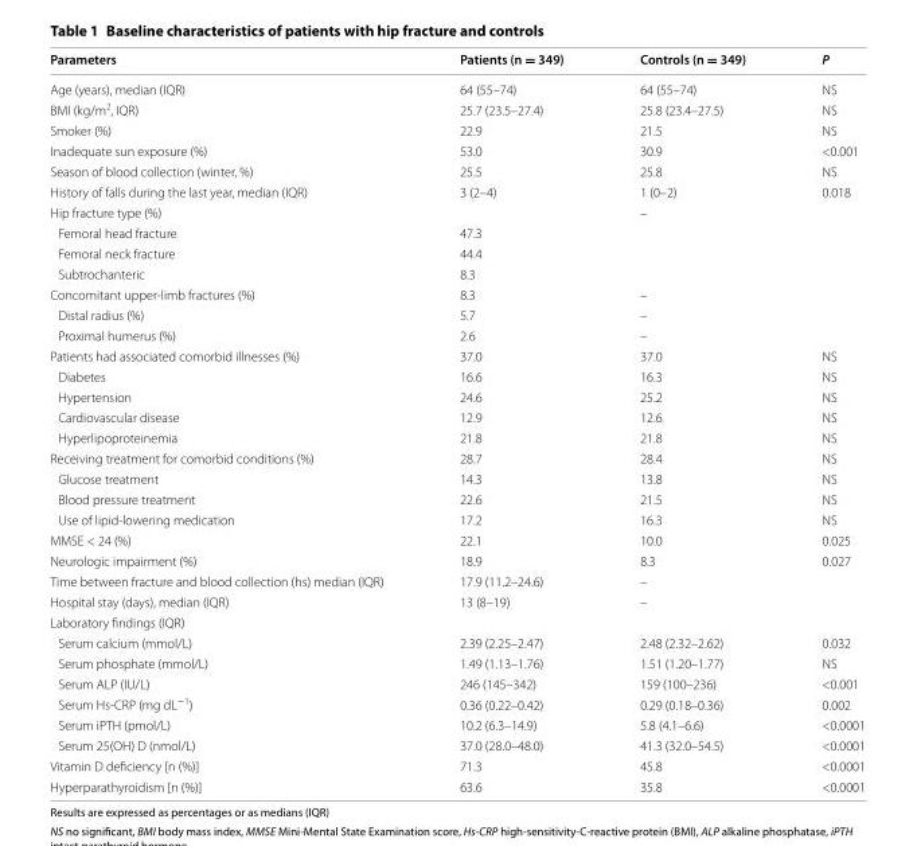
<table><thead><tr><td>Parameters</td><td>Patients (n = 349)</td><td>Controls (n = 349)</td><td>P</td></tr></thead><tbody><tr><td>Age (years), median (IQR)</td><td>64 (55–74)</td><td>64 (55–74)</td><td>NS</td></tr><tr><td>BMI (kg/m<sup>2</sup>, IQR)</td><td>25.7 (23.5–27.4)</td><td>25.8 (23.4–27.5)</td><td>NS</td></tr><tr><td>Smoker (%)</td><td>22.9</td><td>21.5</td><td>NS</td></tr><tr><td>Inadequate sun exposure (%)</td><td>53.0</td><td>30.9</td><td>&lt;0.001</td></tr><tr><td>Season of blood collection (winter, %)</td><td>25.5</td><td>25.8</td><td>NS</td></tr><tr><td>History of falls during the last year, median (IQR)</td><td>3 (2–4)</td><td>1 (0–2)</td><td>0.018</td></tr><tr><td>Hip fracture type (%)</td><td></td><td>–</td><td></td></tr><tr><td>Femoral head fracture</td><td>47.3</td><td></td><td></td></tr><tr><td>Femoral neck fracture</td><td>44.4</td><td></td><td></td></tr><tr><td>Subtrochanteric</td><td>8.3</td><td></td><td></td></tr><tr><td>Concomitant upper‑limb fractures (%)</td><td>8.3</td><td>–</td><td></td></tr><tr><td>Distal radius (%)</td><td>5.7</td><td>–</td><td></td></tr><tr><td>Proximal humerus (%)</td><td>2.6</td><td>–</td><td></td></tr><tr><td>Patients had associated comorbid illnesses (%)</td><td>37.0</td><td>37.0</td><td>NS</td></tr><tr><td>Diabetes</td><td>16.6</td><td>16.3</td><td>NS</td></tr><tr><td>Hypertension</td><td>24.6</td><td>25.2</td><td>NS</td></tr><tr><td>Cardiovascular disease</td><td>12.9</td><td>12.6</td><td>NS</td></tr><tr><td>Hyperlipoproteinemia</td><td>21.8</td><td>21.8</td><td>NS</td></tr><tr><td>Receiving treatment for comorbid conditions (%)</td><td>28.7</td><td>28.4</td><td>NS</td></tr><tr><td>Glucose treatment</td><td>14.3</td><td>13.8</td><td>NS</td></tr><tr><td>Blood pressure treatment</td><td>22.6</td><td>21.5</td><td>NS</td></tr><tr><td>Use of lipid‑lowering medication</td><td>17.2</td><td>16.3</td><td>NS</td></tr><tr><td>MMSE &lt; 24 (%)</td><td>22.1</td><td>10.0</td><td>0.025</td></tr><tr><td>Neurologic impairment (%)</td><td>18.9</td><td>8.3</td><td>0.027</td></tr><tr><td>Time between fracture and blood collection (hs) median (IQR)</td><td>17.9 (11.2–24.6)</td><td>–</td><td></td></tr><tr><td>Hospital stay (days), median (IQR)</td><td>13 (8–19)</td><td>–</td><td></td></tr><tr><td colspan="4">Laboratory findings (IQR)</td></tr><tr><td>Serum calcium (mmol/L)</td><td>2.39 (2.25–2.47)</td><td>2.48 (2.32–2.62)</td><td>0.032</td></tr><tr><td>Serum phosphate (mmol/L)</td><td>1.49 (1.13–1.76)</td><td>1.51 (1.20–1.77)</td><td>NS</td></tr><tr><td>Serum ALP (IU/L)</td><td>246 (145–342)</td><td>159 (100–236)</td><td>&lt;0.001</td></tr><tr><td>Serum Hs‑CRP (mg dL<sup>−1</sup>)</td><td>0.36 (0.22–0.42)</td><td>0.29 (0.18–0.36)</td><td>0.002</td></tr><tr><td>Serum iPTH (pmol/L)</td><td>10.2 (6.3–14.9)</td><td>5.8 (4.1–6.6)</td><td>&lt;0.0001</td></tr><tr><td>Serum 25(OH) D (nmol/L)</td><td>37.0 (28.0–48.0)</td><td>41.3 (32.0–54.5)</td><td>&lt;0.0001</td></tr><tr><td>Vitamin D deficiency [n (%)]</td><td>71.3</td><td>45.8</td><td>&lt;0.0001</td></tr><tr><td>Hyperparathyroidism [n (%)]</td><td>63.6</td><td>35.8</td><td>&lt;0.0001</td></tr></tbody></table>